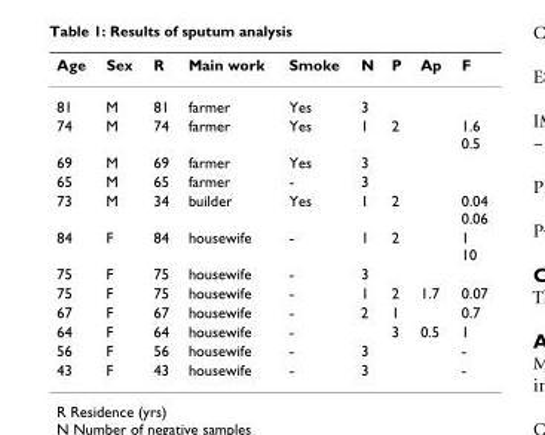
<table><thead><tr><td>Age</td><td>Sex</td><td>R</td><td>Main work</td><td>Smoke</td><td>N</td><td>P</td><td>Ap</td><td>F</td></tr></thead><tbody><tr><td>81</td><td>M</td><td>81</td><td>farmer</td><td>Yes</td><td>3</td><td></td><td></td><td></td></tr><tr><td>74</td><td>M</td><td>74</td><td>farmer</td><td>Yes</td><td>1</td><td>2</td><td></td><td>1.6 0.5</td></tr><tr><td>69</td><td>M</td><td>69</td><td>farmer</td><td>Yes</td><td>3</td><td></td><td></td><td></td></tr><tr><td>65</td><td>M</td><td>65</td><td>farmer</td><td>-</td><td>3</td><td></td><td></td><td></td></tr><tr><td>73</td><td>M</td><td>34</td><td>builder</td><td>Yes</td><td>1</td><td>2</td><td></td><td>0.04 0.06</td></tr><tr><td>84</td><td>F</td><td>84</td><td>housewife</td><td>-</td><td>1</td><td>2</td><td></td><td>1 10</td></tr><tr><td>75</td><td>F</td><td>75</td><td>housewife</td><td>-</td><td>3</td><td></td><td></td><td></td></tr><tr><td>75</td><td>F</td><td>75</td><td>housewife</td><td>-</td><td>1</td><td>2</td><td>1.7</td><td>0.07</td></tr><tr><td>67</td><td>F</td><td>67</td><td>housewife</td><td>-</td><td>2</td><td>1</td><td></td><td>0.7</td></tr><tr><td>64</td><td>F</td><td>64</td><td>housewife</td><td>-</td><td></td><td>3</td><td>0.5</td><td>1</td></tr><tr><td>56</td><td>F</td><td>56</td><td>housewife</td><td>-</td><td>3</td><td></td><td></td><td>-</td></tr><tr><td>43</td><td>F</td><td>43</td><td>housewife</td><td>-</td><td>3</td><td></td><td></td><td>-</td></tr></tbody></table>